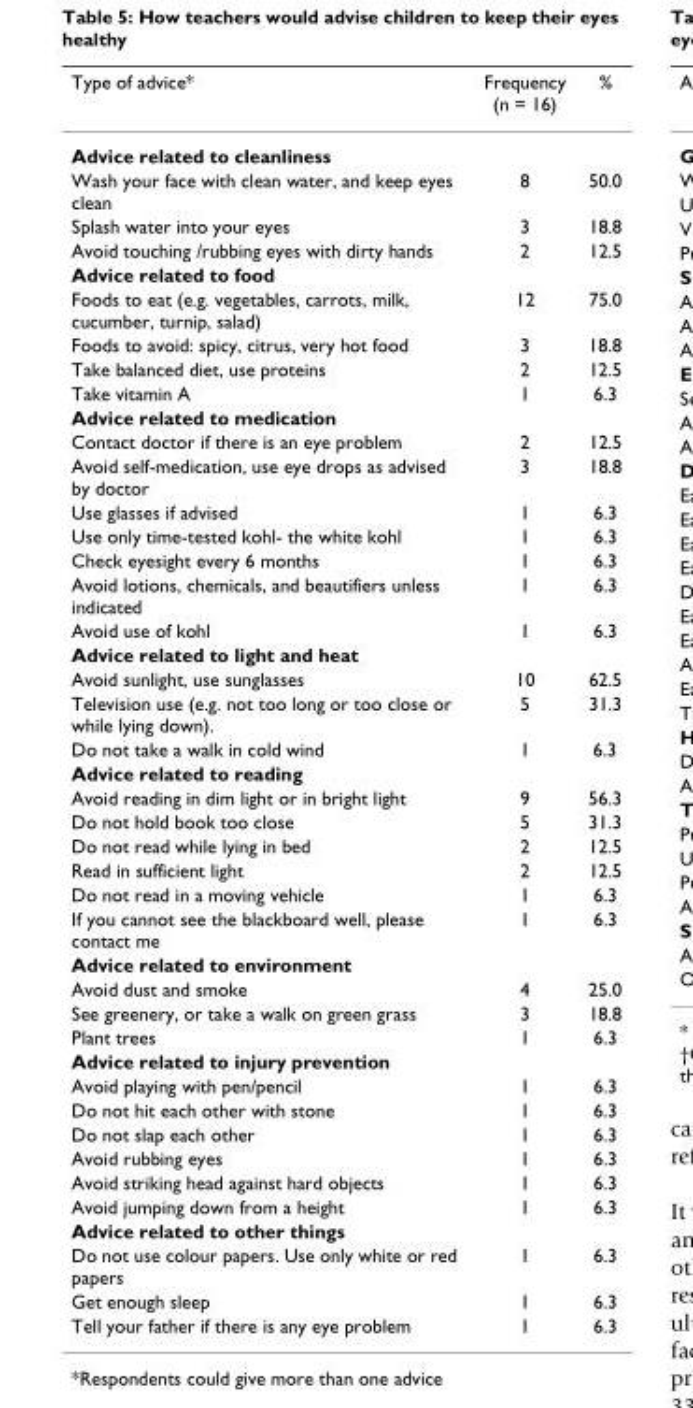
<table><thead><tr><td>Type of advice*</td><td>Frequency (n = 16)</td><td>%</td></tr></thead><tbody><tr><td colspan="3">Advice related to cleanliness</td></tr><tr><td>Wash your face with clean water, and keep eyes clean</td><td>8</td><td>50.0</td></tr><tr><td>Splash water into your eyes</td><td>3</td><td>18.8</td></tr><tr><td>Avoid touching /rubbing eyes with dirty hands</td><td>2</td><td>12.5</td></tr><tr><td colspan="3">Advice related to food</td></tr><tr><td>Foods to eat (e.g. vegetables, carrots, milk, cucumber, turnip, salad)</td><td>12</td><td>75.0</td></tr><tr><td>Foods to avoid: spicy, citrus, very hot food</td><td>3</td><td>18.8</td></tr><tr><td>Take balanced diet, use proteins</td><td>2</td><td>12.5</td></tr><tr><td>Take vitamin A</td><td>1</td><td>6.3</td></tr><tr><td colspan="3">Advice related to medication</td></tr><tr><td>Contact doctor if there is an eye problem</td><td>2</td><td>12.5</td></tr><tr><td>Avoid self-medication, use eye drops as advised by doctor</td><td>3</td><td>18.8</td></tr><tr><td>Use glasses if advised</td><td>1</td><td>6.3</td></tr><tr><td>Use only time-tested kohl- the white kohl</td><td>1</td><td>6.3</td></tr><tr><td>Check eyesight every 6 months</td><td>1</td><td>6.3</td></tr><tr><td>Avoid lotions, chemicals, and beautifiers unless indicated</td><td>1</td><td>6.3</td></tr><tr><td>Avoid use of kohl</td><td>1</td><td>6.3</td></tr><tr><td colspan="3">Advice related to light and heat</td></tr><tr><td>Avoid sunlight, use sunglasses</td><td>10</td><td>62.5</td></tr><tr><td>Television use (e.g. not too long or too close or while lying down).</td><td>5</td><td>31.3</td></tr><tr><td>Do not take a walk in cold wind</td><td>1</td><td>6.3</td></tr><tr><td colspan="3">Advice related to reading</td></tr><tr><td>Avoid reading in dim light or in bright light</td><td>9</td><td>56.3</td></tr><tr><td>Do not hold book too close</td><td>5</td><td>31.3</td></tr><tr><td>Do not read while lying in bed</td><td>2</td><td>12.5</td></tr><tr><td>Read in sufficient light</td><td>2</td><td>12.5</td></tr><tr><td>Do not read in a moving vehicle</td><td>1</td><td>6.3</td></tr><tr><td>If you cannot see the blackboard well, please contact me</td><td>1</td><td>6.3</td></tr><tr><td colspan="3">Advice related to environment</td></tr><tr><td>Avoid dust and smoke</td><td>4</td><td>25.0</td></tr><tr><td>See greenery, or take a walk on green grass</td><td>3</td><td>18.8</td></tr><tr><td>Plant trees</td><td>1</td><td>6.3</td></tr><tr><td colspan="3">Advice related to injury prevention</td></tr><tr><td>Avoid playing with pen/pencil</td><td>1</td><td>6.3</td></tr><tr><td>Do not hit each other with stone</td><td>1</td><td>6.3</td></tr><tr><td>Do not slap each other</td><td>1</td><td>6.3</td></tr><tr><td>Avoid rubbing eyes</td><td>1</td><td>6.3</td></tr><tr><td>Avoid striking head against hard objects</td><td>1</td><td>6.3</td></tr><tr><td>Avoid jumping down from a height</td><td>1</td><td>6.3</td></tr><tr><td colspan="3">Advice related to other things</td></tr><tr><td>Do not use colour papers. Use only white or red papers</td><td>1</td><td>6.3</td></tr><tr><td>Get enough sleep</td><td>1</td><td>6.3</td></tr><tr><td>Tell your father if there is any eye problem</td><td>1</td><td>6.3</td></tr></tbody></table>